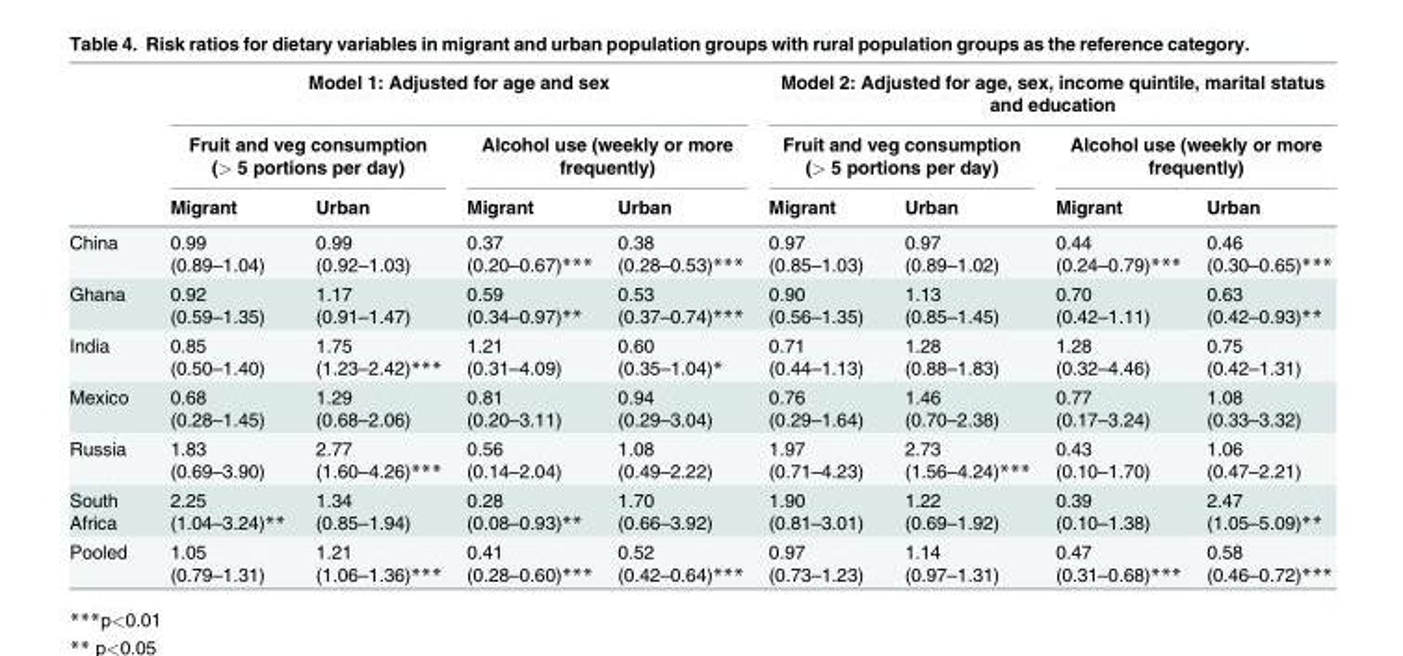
<table><thead><tr><td rowspan="3"></td><td colspan="4">Model 1: Adjusted for age and sex</td><td colspan="4">Model 2: Adjusted for age, sex, income quintile, marital status and education</td></tr><tr><td colspan="2">Fruit and veg consumption (&gt; 5 portions per day)</td><td colspan="2">Alcohol use (weekly or more frequently)</td><td colspan="2">Fruit and veg consumption (&gt; 5 portions per day)</td><td colspan="2">Alcohol use (weekly or more frequently)</td></tr><tr><td>Migrant</td><td>Urban</td><td>Migrant</td><td>Urban</td><td>Migrant</td><td>Urban</td><td>Migrant</td><td>Urban</td></tr></thead><tbody><tr><td>China</td><td>0.99 (0.89–1.04)</td><td>0.99 (0.92–1.03)</td><td>0.37 (0.20–0.67)***</td><td>0.38 (0.28–0.53)***</td><td>0.97 (0.85–1.03)</td><td>0.97 (0.89–1.02)</td><td>0.44 (0.24–0.79)***</td><td>0.46 (0.30–0.65)***</td></tr><tr><td>Ghana</td><td>0.92 (0.59–1.35)</td><td>1.17 (0.91–1.47)</td><td>0.59 (0.34–0.97)**</td><td>0.53 (0.37–0.74)***</td><td>0.90 (0.56–1.35)</td><td>1.13 (0.85–1.45)</td><td>0.70 (0.42–1.11)</td><td>0.63 (0.42–0.93)**</td></tr><tr><td>India</td><td>0.85 (0.50–1.40)</td><td>1.75 (1.23–2.42)***</td><td>1.21 (0.31–4.09)</td><td>0.60 (0.35–1.04)*</td><td>0.71 (0.44–1.13)</td><td>1.28 (0.88–1.83)</td><td>1.28 (0.32–4.46)</td><td>0.75 (0.42–1.31)</td></tr><tr><td>Mexico</td><td>0.68 (0.28–1.45)</td><td>1.29 (0.68–2.06)</td><td>0.81 (0.20–3.11)</td><td>0.94 (0.29–3.04)</td><td>0.76 (0.29–1.64)</td><td>1.46 (0.70–2.38)</td><td>0.77 (0.17–3.24)</td><td>1.08 (0.33–3.32)</td></tr><tr><td>Russia</td><td>1.83 (0.69–3.90)</td><td>2.77 (1.60–4.26)***</td><td>0.56 (0.14–2.04)</td><td>1.08 (0.49–2.22)</td><td>1.97 (0.71–4.23)</td><td>2.73 (1.56–4.24)***</td><td>0.43 (0.10–1.70)</td><td>1.06 (0.47–2.21)</td></tr><tr><td>South Africa</td><td>2.25 (1.04–3.24)**</td><td>1.34 (0.85–1.94)</td><td>0.28 (0.08–0.93)**</td><td>1.70 (0.66–3.92)</td><td>1.90 (0.81–3.01)</td><td>1.22 (0.69–1.92)</td><td>0.39 (0.10–1.38)</td><td>2.47 (1.05–5.09)**</td></tr><tr><td>Pooled</td><td>1.05 (0.79–1.31)</td><td>1.21 (1.06–1.36)***</td><td>0.41 (0.28–0.60)***</td><td>0.52 (0.42–0.64)***</td><td>0.97 (0.73–1.23)</td><td>1.14 (0.97–1.31)</td><td>0.47 (0.31–0.68)***</td><td>0.58 (0.46–0.72)***</td></tr></tbody></table>